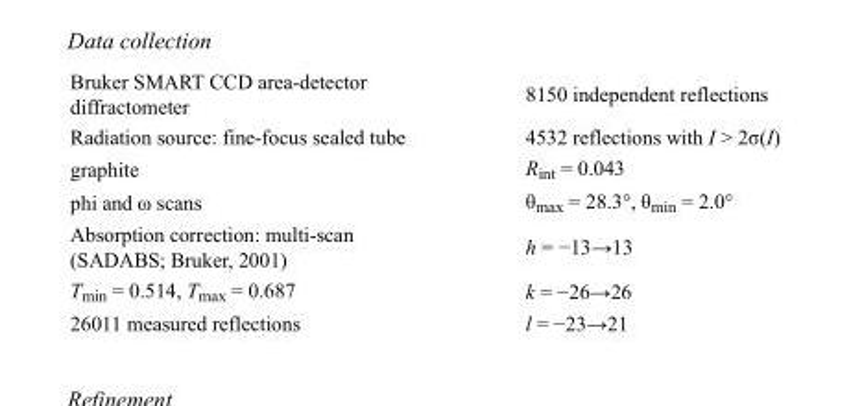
<table><tbody><tr><td>Bruker SMART CCD area-detector diffractometer</td><td>8150 independent reflections</td></tr><tr><td>Radiation source: fine-focus sealed tube</td><td>4532 reflections with I &gt; 2σ(I)</td></tr><tr><td>graphite</td><td>R<sub>int</sub> = 0.043</td></tr><tr><td>phi and ω scans</td><td>θ<sub>max</sub> = 28.3°, θ<sub>min</sub> = 2.0°</td></tr><tr><td>Absorption correction: multi-scan (SADABS; Bruker, 2001)</td><td>h = −13→13</td></tr><tr><td>T<sub>min</sub> = 0.514, T<sub>max</sub> = 0.687</td><td>k = −26→26</td></tr><tr><td>26011 measured reflections</td><td>l = −23→21</td></tr></tbody></table>